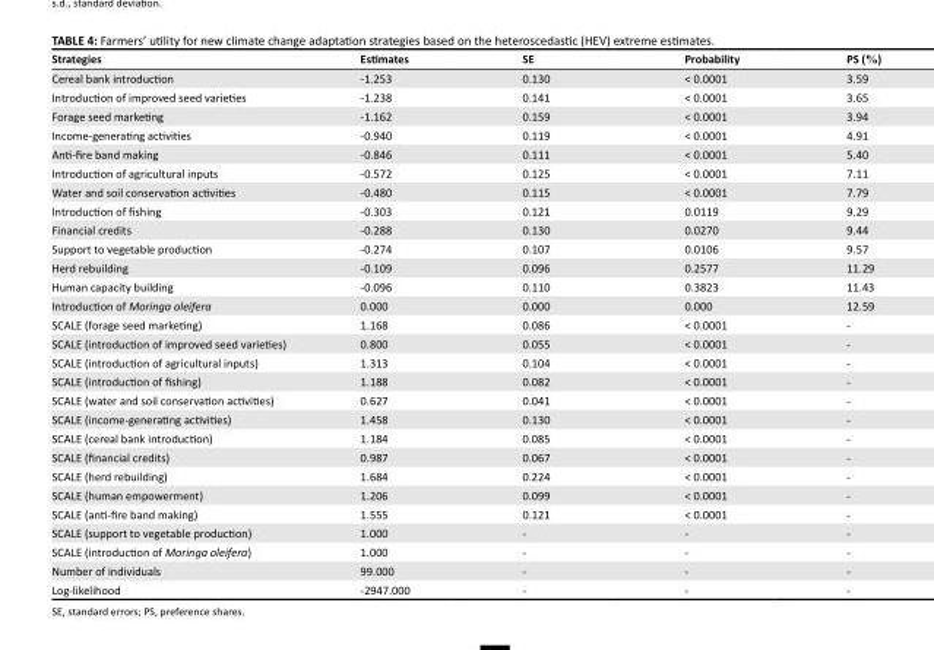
<table><thead><tr><td>Strategies</td><td>Estimates</td><td>SE</td><td>Probability</td><td>PS (%)</td></tr></thead><tbody><tr><td>Cereal bank introduction</td><td>-1.253</td><td>0.130</td><td>&lt; 0.0001</td><td>3.59</td></tr><tr><td>Introduction of improved seed varieties</td><td>-1.238</td><td>0.141</td><td>&lt; 0.0001</td><td>3.65</td></tr><tr><td>Forage seed marketing</td><td>-1.162</td><td>0.159</td><td>&lt; 0.0001</td><td>3.94</td></tr><tr><td>Income-generating activities</td><td>-0.940</td><td>0.119</td><td>&lt; 0.0001</td><td>4.91</td></tr><tr><td>Anti-fire band making</td><td>-0.846</td><td>0.111</td><td>&lt; 0.0001</td><td>5.40</td></tr><tr><td>Introduction of agricultural inputs</td><td>-0.572</td><td>0.125</td><td>&lt; 0.0001</td><td>7.11</td></tr><tr><td>Water and soil conservation activities</td><td>-0.480</td><td>0.115</td><td>&lt; 0.0001</td><td>7.79</td></tr><tr><td>Introduction of fishing</td><td>-0.303</td><td>0.121</td><td>0.0119</td><td>9.29</td></tr><tr><td>Financial credits</td><td>-0.288</td><td>0.130</td><td>0.0270</td><td>9.44</td></tr><tr><td>Support to vegetable production</td><td>-0.274</td><td>0.107</td><td>0.0106</td><td>9.57</td></tr><tr><td>Herd rebuilding</td><td>-0.109</td><td>0.096</td><td>0.2577</td><td>11.29</td></tr><tr><td>Human capacity building</td><td>-0.096</td><td>0.110</td><td>0.3823</td><td>11.43</td></tr><tr><td>Introduction of Moringa oleifera</td><td>0.000</td><td>0.000</td><td>0.000</td><td>12.59</td></tr><tr><td>SCALE (forage seed marketing)</td><td>1.168</td><td>0.086</td><td>&lt; 0.0001</td><td>-</td></tr><tr><td>SCALE (introduction of improved seed varieties)</td><td>0.800</td><td>0.055</td><td>&lt; 0.0001</td><td>-</td></tr><tr><td>SCALE (introduction of agricultural inputs)</td><td>1.313</td><td>0.104</td><td>&lt; 0.0001</td><td>-</td></tr><tr><td>SCALE (introduction of fishing)</td><td>1.188</td><td>0.082</td><td>&lt; 0.0001</td><td>-</td></tr><tr><td>SCALE (water and soil conservation activities)</td><td>0.627</td><td>0.041</td><td>&lt; 0.0001</td><td>-</td></tr><tr><td>SCALE (income-generating activities)</td><td>1.458</td><td>0.130</td><td>&lt; 0.0001</td><td>-</td></tr><tr><td>SCALE (cereal bank introduction)</td><td>1.184</td><td>0.085</td><td>&lt; 0.0001</td><td>-</td></tr><tr><td>SCALE (financial credits)</td><td>0.987</td><td>0.067</td><td>&lt; 0.0001</td><td>-</td></tr><tr><td>SCALE (herd rebuilding)</td><td>1.684</td><td>0.224</td><td>&lt; 0.0001</td><td>-</td></tr><tr><td>SCALE (human empowerment)</td><td>1.206</td><td>0.099</td><td>&lt; 0.0001</td><td>-</td></tr><tr><td>SCALE (anti-fire band making)</td><td>1.555</td><td>0.121</td><td>&lt; 0.0001</td><td>-</td></tr><tr><td>SCALE (support to vegetable production)</td><td>1.000</td><td>-</td><td>-</td><td>-</td></tr><tr><td>SCALE (introduction of Moringa oleifera)</td><td>1.000</td><td>-</td><td>-</td><td>-</td></tr><tr><td>Number of individuals</td><td>99.000</td><td>-</td><td>-</td><td>-</td></tr><tr><td>Log-likelihood</td><td>-2947.000</td><td>-</td><td>-</td><td>-</td></tr></tbody></table>